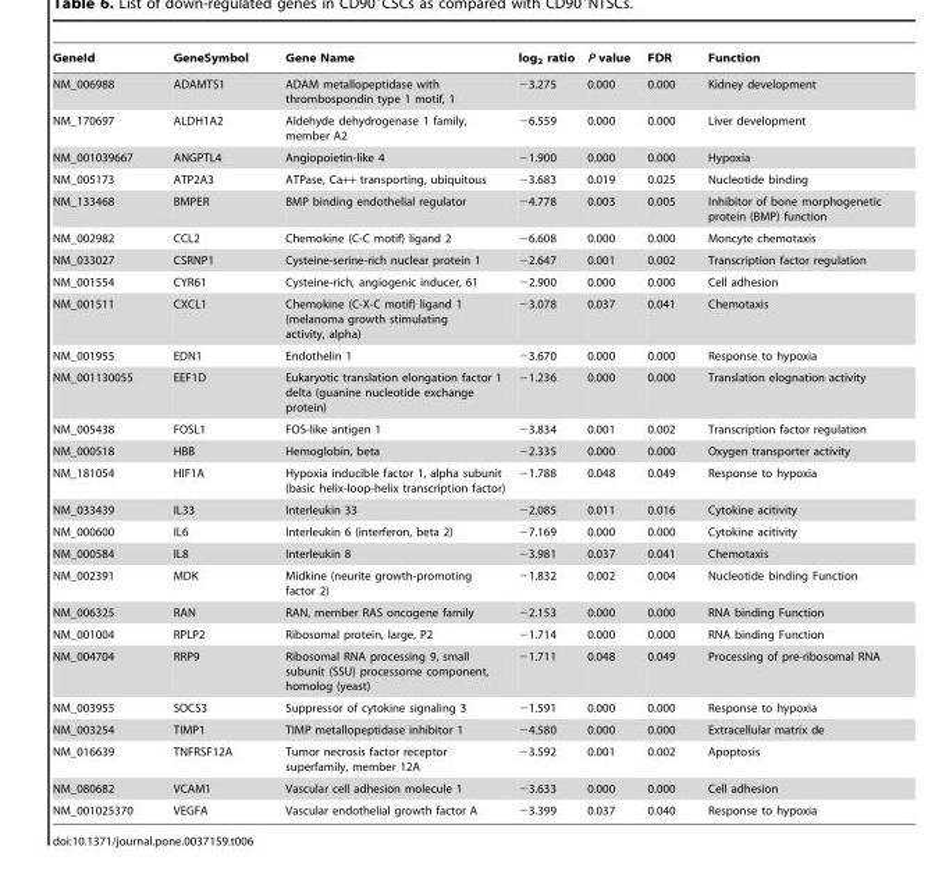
<table><thead><tr><td>GeneId</td><td>GeneSymbol</td><td>Gene Name</td><td>log<sub>2</sub> ratio</td><td>P value</td><td>FDR</td><td>Function</td></tr></thead><tbody><tr><td>NM_006988</td><td>ADAMTS1</td><td>ADAM metallopeptidase with thrombospondin type 1 motif, 1</td><td>−3.275</td><td>0.000</td><td>0.000</td><td>Kidney development</td></tr><tr><td>NM_170697</td><td>ALDH1A2</td><td>Aldehyde dehydrogenase 1 family, member A2</td><td>−6.559</td><td>0.000</td><td>0.000</td><td>Liver development</td></tr><tr><td>NM_001039667</td><td>ANGPTL4</td><td>Angiopoietin-like 4</td><td>−1.900</td><td>0.000</td><td>0.000</td><td>Hypoxia</td></tr><tr><td>NM_005173</td><td>ATP2A3</td><td>ATPase, Ca++ transporting, ubiquitous</td><td>−3.683</td><td>0.019</td><td>0.025</td><td>Nucleotide binding</td></tr><tr><td>NM_133468</td><td>BMPER</td><td>BMP binding endothelial regulator</td><td>−4.778</td><td>0.003</td><td>0.005</td><td>Inhibitor of bone morphogenetic protein (BMP) function</td></tr><tr><td>NM_002982</td><td>CCL2</td><td>Chemokine (C-C motif) ligand 2</td><td>−6.608</td><td>0.000</td><td>0.000</td><td>Moncyte chemotaxis</td></tr><tr><td>NM_033027</td><td>CSRNP1</td><td>Cysteine-serine-rich nuclear protein 1</td><td>−2.647</td><td>0.001</td><td>0.002</td><td>Transcription factor regulation</td></tr><tr><td>NM_001554</td><td>CYR61</td><td>Cysteine-rich, angiogenic inducer, 61</td><td>−2.900</td><td>0.000</td><td>0.000</td><td>Cell adhesion</td></tr><tr><td>NM_001511</td><td>CXCL1</td><td>Chemokine (C-X-C motif) ligand 1 (melanoma growth stimulating activity, alpha)</td><td>−3.078</td><td>0.037</td><td>0.041</td><td>Chemotaxis</td></tr><tr><td>NM_001955</td><td>EDN1</td><td>Endothelin 1</td><td>−3.670</td><td>0.000</td><td>0.000</td><td>Response to hypoxia</td></tr><tr><td>NM_001130055</td><td>EEF1D</td><td>Eukaryotic translation elongation factor 1 delta (guanine nucleotide exchange protein)</td><td>−1.236</td><td>0.000</td><td>0.000</td><td>Translation elognation activity</td></tr><tr><td>NM_005438</td><td>FOSL1</td><td>FOS-like antigen 1</td><td>−3.834</td><td>0.001</td><td>0.002</td><td>Transcription factor regulation</td></tr><tr><td>NM_000518</td><td>HBB</td><td>Hemoglobin, beta</td><td>−2.335</td><td>0.000</td><td>0.000</td><td>Oxygen transporter activity</td></tr><tr><td>NM_181054</td><td>HIF1A</td><td>Hypoxia inducible factor 1, alpha subunit (basic helix-loop-helix transcription factor)</td><td>−1.788</td><td>0.048</td><td>0.049</td><td>Response to hypoxia</td></tr><tr><td>NM_033439</td><td>IL33</td><td>Interleukin 33</td><td>−2.085</td><td>0.011</td><td>0.016</td><td>Cytokine acitivity</td></tr><tr><td>NM_000600</td><td>IL6</td><td>Interleukin 6 (interferon, beta 2)</td><td>−7.169</td><td>0.000</td><td>0.000</td><td>Cytokine acitivity</td></tr><tr><td>NM_000584</td><td>IL8</td><td>Interleukin 8</td><td>−3.981</td><td>0.037</td><td>0.041</td><td>Chemotaxis</td></tr><tr><td>NM_002391</td><td>MDK</td><td>Midkine (neurite growth-promoting factor 2)</td><td>−1.832</td><td>0.002</td><td>0.004</td><td>Nucleotide binding Function</td></tr><tr><td>NM_006325</td><td>RAN</td><td>RAN, member RAS oncogene family</td><td>−2.153</td><td>0.000</td><td>0.000</td><td>RNA binding Function</td></tr><tr><td>NM_001004</td><td>RPLP2</td><td>Ribosomal protein, large, P2</td><td>−1.714</td><td>0.000</td><td>0.000</td><td>RNA binding Function</td></tr><tr><td>NM_004704</td><td>RRP9</td><td>Ribosomal RNA processing 9, small subunit (SSU) processome component, homolog (yeast)</td><td>−1.711</td><td>0.048</td><td>0.049</td><td>Processing of pre-ribosomal RNA</td></tr><tr><td>NM_003955</td><td>SOCS3</td><td>Suppressor of cytokine signaling 3</td><td>−1.591</td><td>0.000</td><td>0.000</td><td>Response to hypoxia</td></tr><tr><td>NM_003254</td><td>TIMP1</td><td>TIMP metallopeptidase inhibitor 1</td><td>−4.580</td><td>0.000</td><td>0.000</td><td>Extracellular matrix de</td></tr><tr><td>NM_016639</td><td>TNFRSF12A</td><td>Tumor necrosis factor receptor superfamily, member 12A</td><td>−3.592</td><td>0.001</td><td>0.002</td><td>Apoptosis</td></tr><tr><td>NM_080682</td><td>VCAM1</td><td>Vascular cell adhesion molecule 1</td><td>−3.633</td><td>0.000</td><td>0.000</td><td>Cell adhesion</td></tr><tr><td>NM_001025370</td><td>VEGFA</td><td>Vascular endothelial growth factor A</td><td>−3.399</td><td>0.037</td><td>0.040</td><td>Response to hypoxia</td></tr></tbody></table>